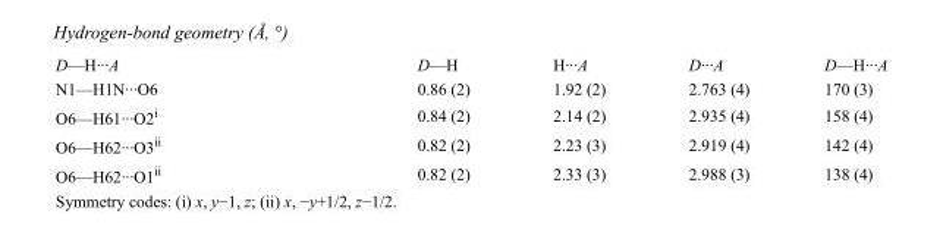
<table><tbody><tr><td>D—H···A</td><td>D—H</td><td>H···A</td><td>D···A</td><td>D—H···A</td></tr><tr><td>N1—H1N···O6</td><td>0.86 (2)</td><td>1.92 (2)</td><td>2.763 (4)</td><td>170 (3)</td></tr><tr><td>O6—H61···O2<sup>i</sup></td><td>0.84 (2)</td><td>2.14 (2)</td><td>2.935 (4)</td><td>158 (4)</td></tr><tr><td>O6—H62···O3<sup>ii</sup></td><td>0.82 (2)</td><td>2.23 (3)</td><td>2.919 (4)</td><td>142 (4)</td></tr><tr><td>O6—H62···O1<sup>ii</sup></td><td>0.82 (2)</td><td>2.33 (3)</td><td>2.988 (3)</td><td>138 (4)</td></tr></tbody></table>